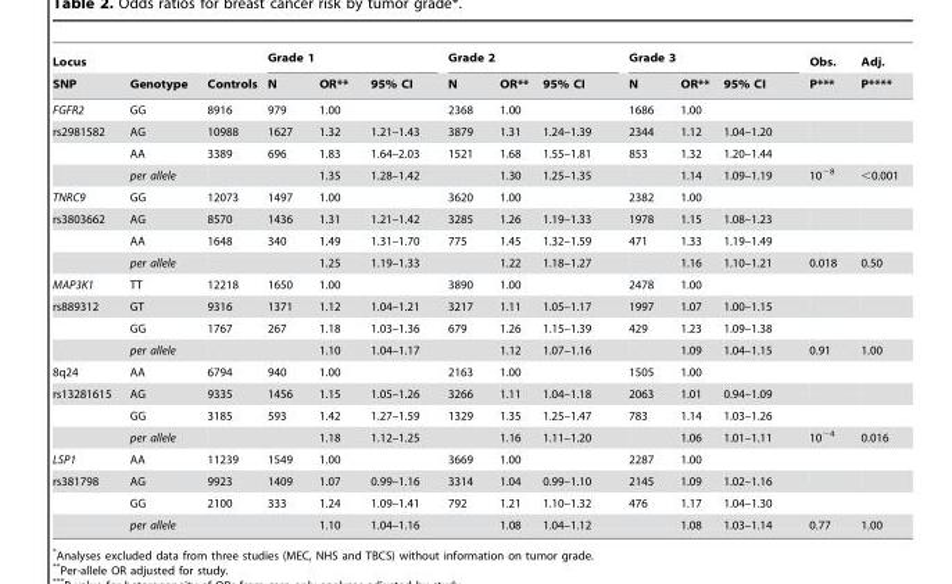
<table><thead><tr><td rowspan="2">Locus SNP</td><td rowspan="2">Genotype</td><td rowspan="2">Controls</td><td colspan="3">Grade 1</td><td colspan="3">Grade 2</td><td colspan="3">Grade 3</td><td rowspan="2">Obs. P***</td><td rowspan="2">Adj. P****</td></tr><tr><td>N</td><td>OR**</td><td>95% CI</td><td>N</td><td>OR**</td><td>95% CI</td><td>N</td><td>OR**</td><td>95% CI</td></tr></thead><tbody><tr><td>FGFR2</td><td>GG</td><td>8916</td><td>979</td><td>1.00</td><td></td><td>2368</td><td>1.00</td><td></td><td>1686</td><td>1.00</td><td></td><td></td><td></td></tr><tr><td rowspan="3">rs2981582</td><td>AG</td><td>10988</td><td>1627</td><td>1.32</td><td>1.21–1.43</td><td>3879</td><td>1.31</td><td>1.24–1.39</td><td>2344</td><td>1.12</td><td>1.04–1.20</td><td></td><td></td></tr><tr><td>AA</td><td>3389</td><td>696</td><td>1.83</td><td>1.64–2.03</td><td>1521</td><td>1.68</td><td>1.55–1.81</td><td>853</td><td>1.32</td><td>1.20–1.44</td><td></td><td></td></tr><tr><td>per allele</td><td></td><td></td><td>1.35</td><td>1.28–1.42</td><td></td><td>1.30</td><td>1.25–1.35</td><td></td><td>1.14</td><td>1.09–1.19</td><td>10<sup>−8</sup></td><td>&lt;0.001</td></tr><tr><td>TNRC9</td><td>GG</td><td>12073</td><td>1497</td><td>1.00</td><td></td><td>3620</td><td>1.00</td><td></td><td>2382</td><td>1.00</td><td></td><td></td><td></td></tr><tr><td rowspan="3">rs3803662</td><td>AG</td><td>8570</td><td>1436</td><td>1.31</td><td>1.21–1.42</td><td>3285</td><td>1.26</td><td>1.19–1.33</td><td>1978</td><td>1.15</td><td>1.08–1.23</td><td></td><td></td></tr><tr><td>AA</td><td>1648</td><td>340</td><td>1.49</td><td>1.31–1.70</td><td>775</td><td>1.45</td><td>1.32–1.59</td><td>471</td><td>1.33</td><td>1.19–1.49</td><td></td><td></td></tr><tr><td>per allele</td><td></td><td></td><td>1.25</td><td>1.19–1.33</td><td></td><td>1.22</td><td>1.18–1.27</td><td></td><td>1.16</td><td>1.10–1.21</td><td>0.018</td><td>0.50</td></tr><tr><td>MAP3K1</td><td>TT</td><td>12218</td><td>1650</td><td>1.00</td><td></td><td>3890</td><td>1.00</td><td></td><td>2478</td><td>1.00</td><td></td><td></td><td></td></tr><tr><td rowspan="3">rs889312</td><td>GT</td><td>9316</td><td>1371</td><td>1.12</td><td>1.04–1.21</td><td>3217</td><td>1.11</td><td>1.05–1.17</td><td>1997</td><td>1.07</td><td>1.00–1.15</td><td></td><td></td></tr><tr><td>GG</td><td>1767</td><td>267</td><td>1.18</td><td>1.03–1.36</td><td>679</td><td>1.26</td><td>1.15–1.39</td><td>429</td><td>1.23</td><td>1.09–1.38</td><td></td><td></td></tr><tr><td>per allele</td><td></td><td></td><td>1.10</td><td>1.04–1.17</td><td></td><td>1.12</td><td>1.07–1.16</td><td></td><td>1.09</td><td>1.04–1.15</td><td>0.91</td><td>1.00</td></tr><tr><td>8q24</td><td>AA</td><td>6794</td><td>940</td><td>1.00</td><td></td><td>2163</td><td>1.00</td><td></td><td>1505</td><td>1.00</td><td></td><td></td><td></td></tr><tr><td rowspan="3">rs13281615</td><td>AG</td><td>9335</td><td>1456</td><td>1.15</td><td>1.05–1.26</td><td>3266</td><td>1.11</td><td>1.04–1.18</td><td>2063</td><td>1.01</td><td>0.94–1.09</td><td></td><td></td></tr><tr><td>GG</td><td>3185</td><td>593</td><td>1.42</td><td>1.27–1.59</td><td>1329</td><td>1.35</td><td>1.25–1.47</td><td>783</td><td>1.14</td><td>1.03–1.26</td><td></td><td></td></tr><tr><td>per allele</td><td></td><td></td><td>1.18</td><td>1.12–1.25</td><td></td><td>1.16</td><td>1.11–1.20</td><td></td><td>1.06</td><td>1.01–1.11</td><td>10<sup>−4</sup></td><td>0.016</td></tr><tr><td>LSP1</td><td>AA</td><td>11239</td><td>1549</td><td>1.00</td><td></td><td>3669</td><td>1.00</td><td></td><td>2287</td><td>1.00</td><td></td><td></td><td></td></tr><tr><td rowspan="3">rs381798</td><td>AG</td><td>9923</td><td>1409</td><td>1.07</td><td>0.99–1.16</td><td>3314</td><td>1.04</td><td>0.99–1.10</td><td>2145</td><td>1.09</td><td>1.02–1.16</td><td></td><td></td></tr><tr><td>GG</td><td>2100</td><td>333</td><td>1.24</td><td>1.09–1.41</td><td>792</td><td>1.21</td><td>1.10–1.32</td><td>476</td><td>1.17</td><td>1.04–1.30</td><td></td><td></td></tr><tr><td>per allele</td><td></td><td></td><td>1.10</td><td>1.04–1.16</td><td></td><td>1.08</td><td>1.04–1.12</td><td></td><td>1.08</td><td>1.03–1.14</td><td>0.77</td><td>1.00</td></tr></tbody></table>